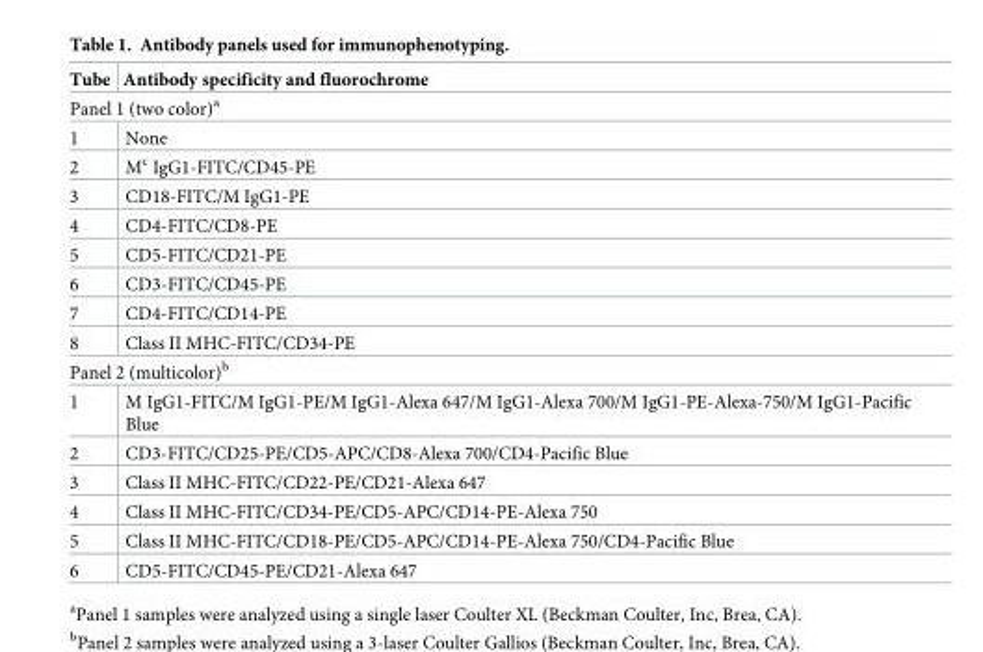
<table><thead><tr><td>Tube</td><td>Antibody specificity and fluorochrome</td></tr></thead><tbody><tr><td colspan="2">Panel 1 (two color)<sup>a</sup></td></tr><tr><td>1</td><td>None</td></tr><tr><td>2</td><td>M<sup>c</sup> IgG1-FITC/CD45-PE</td></tr><tr><td>3</td><td>CD18-FITC/M IgG1-PE</td></tr><tr><td>4</td><td>CD4-FITC/CD8-PE</td></tr><tr><td>5</td><td>CD5-FITC/CD21-PE</td></tr><tr><td>6</td><td>CD3-FITC/CD45-PE</td></tr><tr><td>7</td><td>CD4-FITC/CD14-PE</td></tr><tr><td>8</td><td>Class II MHC-FITC/CD34-PE</td></tr><tr><td colspan="2">Panel 2 (multicolor)<sup>b</sup></td></tr><tr><td>1</td><td>M IgG1-FITC/M IgG1-PE/M IgG1-Alexa 647/M IgG1-Alexa 700/M IgG1-PE-Alexa-750/M IgG1-Pacific Blue</td></tr><tr><td>2</td><td>CD3-FITC/CD25-PE/CD5-APC/CD8-Alexa 700/CD4-Pacific Blue</td></tr><tr><td>3</td><td>Class II MHC-FITC/CD22-PE/CD21-Alexa 647</td></tr><tr><td>4</td><td>Class II MHC-FITC/CD34-PE/CD5-APC/CD14-PE-Alexa 750</td></tr><tr><td>5</td><td>Class II MHC-FITC/CD18-PE/CD5-APC/CD14-PE-Alexa 750/CD4-Pacific Blue</td></tr><tr><td>6</td><td>CD5-FITC/CD45-PE/CD21-Alexa 647</td></tr></tbody></table>